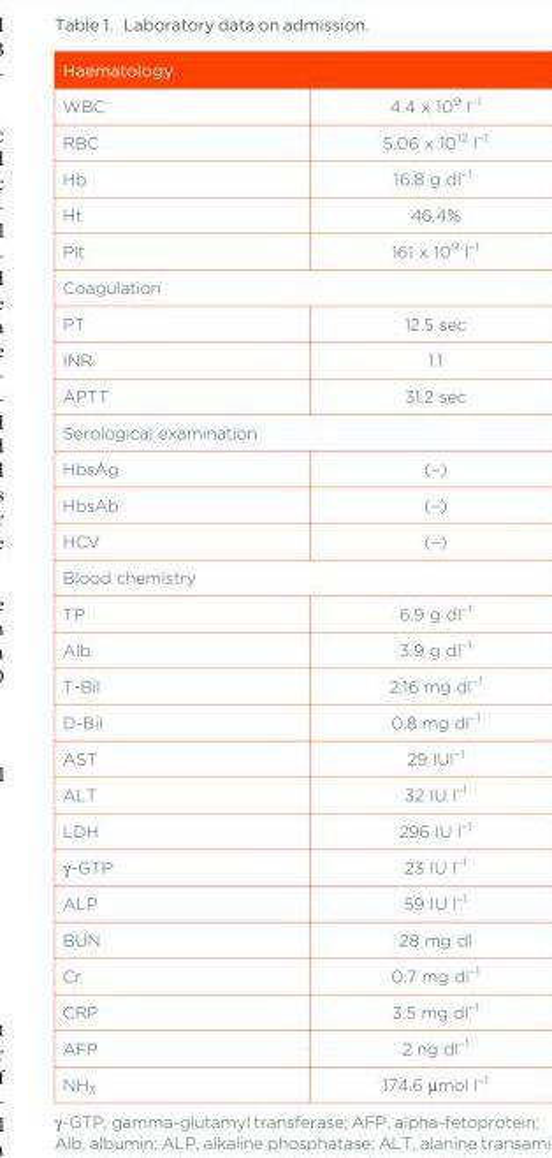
<table><thead><tr><td colspan="2">Haematology</td></tr><tr><td>WBC</td><td>4.4 x 10<sup>9</sup> l<sup>–1</sup></td></tr></thead><tbody><tr><td>RBC</td><td>5.06 x 10<sup>12</sup> l<sup>–1</sup></td></tr><tr><td>Hb</td><td>16.8 g dl<sup>–1</sup></td></tr><tr><td>Ht</td><td>46.4%</td></tr><tr><td>Plt</td><td>161 x 10<sup>9</sup> l<sup>–1</sup></td></tr><tr><td colspan="2">Coagulation</td></tr><tr><td>PT</td><td>12.5 sec</td></tr><tr><td>INR</td><td>1.1</td></tr><tr><td>APTT</td><td>31.2 sec</td></tr><tr><td colspan="2">Serological examination</td></tr><tr><td>HbsAg</td><td>(–)</td></tr><tr><td>HbsAb</td><td>(–)</td></tr><tr><td>HCV</td><td>(–)</td></tr><tr><td colspan="2">Blood chemistry</td></tr><tr><td>TP</td><td>6.9 g dl<sup>–1</sup></td></tr><tr><td>Alb</td><td>3.9 g dl<sup>–1</sup></td></tr><tr><td>T-Bil</td><td>2.16 mg dl<sup>–1</sup></td></tr><tr><td>D-Bil</td><td>0.8 mg dl<sup>–1</sup></td></tr><tr><td>AST</td><td>29 IUl<sup>–1</sup></td></tr><tr><td>ALT</td><td>32 IU l<sup>–1</sup></td></tr><tr><td>LDH</td><td>296 IU l<sup>–1</sup></td></tr><tr><td>γ-GTP</td><td>23 IU l<sup>–1</sup></td></tr><tr><td>ALP</td><td>59 IU l<sup>–1</sup></td></tr><tr><td>BUN</td><td>28 mg dl</td></tr><tr><td>Cr</td><td>0.7 mg dl<sup>–1</sup></td></tr><tr><td>CRP</td><td>3.5 mg dl<sup>–1</sup></td></tr><tr><td>AFP</td><td>2 ng dl<sup>–1</sup></td></tr><tr><td>NH<sub>3</sub></td><td>174.6 μmol l<sup>–1</sup></td></tr></tbody></table>